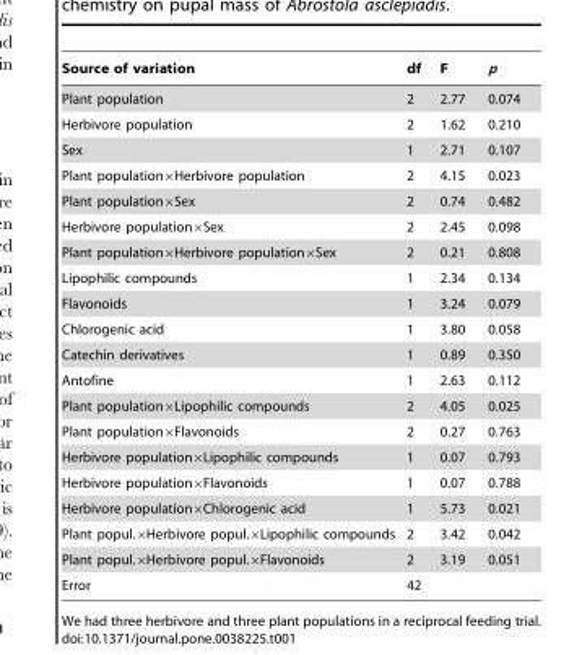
<table><thead><tr><td>Source of variation</td><td>df</td><td>F</td><td>p</td></tr></thead><tbody><tr><td>Plant population</td><td>2</td><td>2.77</td><td>0.074</td></tr><tr><td>Herbivore population</td><td>2</td><td>1.62</td><td>0.210</td></tr><tr><td>Sex</td><td>1</td><td>2.71</td><td>0.107</td></tr><tr><td>Plant population×Herbivore population</td><td>2</td><td>4.15</td><td>0.023</td></tr><tr><td>Plant population×Sex</td><td>2</td><td>0.74</td><td>0.482</td></tr><tr><td>Herbivore population×Sex</td><td>2</td><td>2.45</td><td>0.098</td></tr><tr><td>Plant population×Herbivore population×Sex</td><td>2</td><td>0.21</td><td>0.808</td></tr><tr><td>Lipophilic compounds</td><td>1</td><td>2.34</td><td>0.134</td></tr><tr><td>Flavonoids</td><td>1</td><td>3.24</td><td>0.079</td></tr><tr><td>Chlorogenic acid</td><td>1</td><td>3.80</td><td>0.058</td></tr><tr><td>Catechin derivatives</td><td>1</td><td>0.89</td><td>0.350</td></tr><tr><td>Antofine</td><td>1</td><td>2.63</td><td>0.112</td></tr><tr><td>Plant population×Lipophilic compounds</td><td>2</td><td>4.05</td><td>0.025</td></tr><tr><td>Plant population×Flavonoids</td><td>2</td><td>0.27</td><td>0.763</td></tr><tr><td>Herbivore population×Lipophilic compounds</td><td>1</td><td>0.07</td><td>0.793</td></tr><tr><td>Herbivore population×Flavonoids</td><td>1</td><td>0.07</td><td>0.788</td></tr><tr><td>Herbivore population×Chlorogenic acid</td><td>1</td><td>5.73</td><td>0.021</td></tr><tr><td>Plant popul.×Herbivore popul.×Lipophilic compounds</td><td>2</td><td>3.42</td><td>0.042</td></tr><tr><td>Plant popul.×Herbivore popul.×Flavonoids</td><td>2</td><td>3.19</td><td>0.051</td></tr><tr><td>Error</td><td>42</td><td></td><td></td></tr></tbody></table>